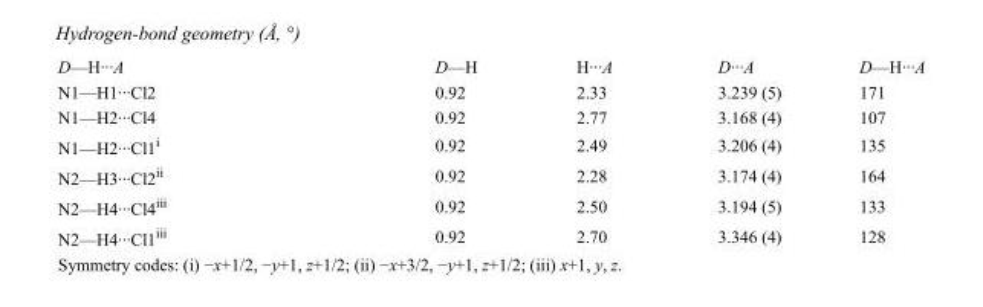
<table><tbody><tr><td>D—H···A</td><td>D—H</td><td>H···A</td><td>D···A</td><td>D—H···A</td></tr><tr><td>N1—H1···Cl2</td><td>0.92</td><td>2.33</td><td>3.239 (5)</td><td>171</td></tr><tr><td>N1—H2···Cl4</td><td>0.92</td><td>2.77</td><td>3.168 (4)</td><td>107</td></tr><tr><td>N1—H2···Cl1<sup>i</sup></td><td>0.92</td><td>2.49</td><td>3.206 (4)</td><td>135</td></tr><tr><td>N2—H3···Cl2<sup>ii</sup></td><td>0.92</td><td>2.28</td><td>3.174 (4)</td><td>164</td></tr><tr><td>N2—H4···Cl4<sup>iii</sup></td><td>0.92</td><td>2.50</td><td>3.194 (5)</td><td>133</td></tr><tr><td>N2—H4···Cl1<sup>iii</sup></td><td>0.92</td><td>2.70</td><td>3.346 (4)</td><td>128</td></tr></tbody></table>